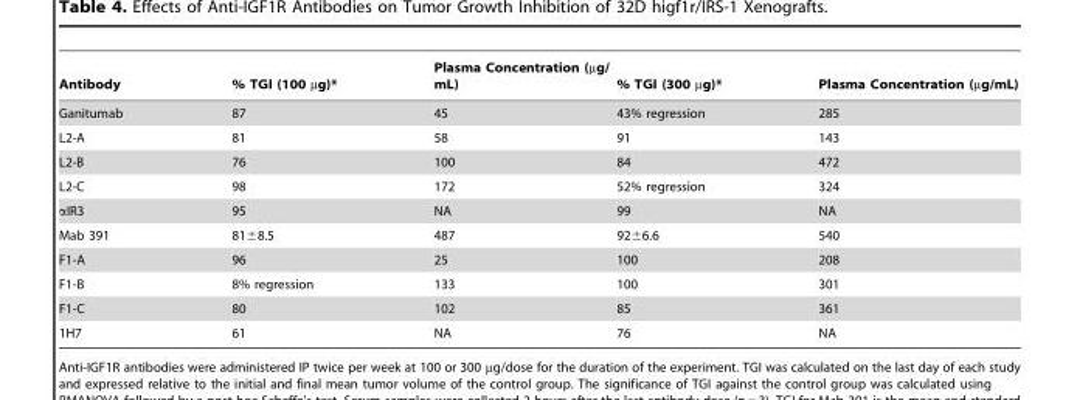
<table><thead><tr><td>Antibody</td><td>% TGI (100 µg)*</td><td>Plasma Concentration (µg/ mL)</td><td>% TGI (300 µg)*</td><td>Plasma Concentration (µg/mL)</td></tr></thead><tbody><tr><td>Ganitumab</td><td>87</td><td>45</td><td>43% regression</td><td>285</td></tr><tr><td>L2-A</td><td>81</td><td>58</td><td>91</td><td>143</td></tr><tr><td>L2-B</td><td>76</td><td>100</td><td>84</td><td>472</td></tr><tr><td>L2-C</td><td>98</td><td>172</td><td>52% regression</td><td>324</td></tr><tr><td>αIR3</td><td>95</td><td>NA</td><td>99</td><td>NA</td></tr><tr><td>Mab 391</td><td>81±8.5</td><td>487</td><td>92±6.6</td><td>540</td></tr><tr><td>F1-A</td><td>96</td><td>25</td><td>100</td><td>208</td></tr><tr><td>F1-B</td><td>8% regression</td><td>133</td><td>100</td><td>301</td></tr><tr><td>F1-C</td><td>80</td><td>102</td><td>85</td><td>361</td></tr><tr><td>1H7</td><td>61</td><td>NA</td><td>76</td><td>NA</td></tr></tbody></table>